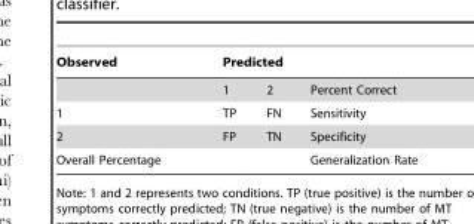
<table><thead><tr><td rowspan="2">Observed</td><td colspan="3">Predicted</td></tr><tr><td>1</td><td>2</td><td>Percent Correct</td></tr></thead><tbody><tr><td>1</td><td>TP</td><td>FN</td><td>Sensitivity</td></tr><tr><td>2</td><td>FP</td><td>TN</td><td>Specificity</td></tr><tr><td>Overall Percentage</td><td></td><td></td><td>Generalization Rate</td></tr></tbody></table>